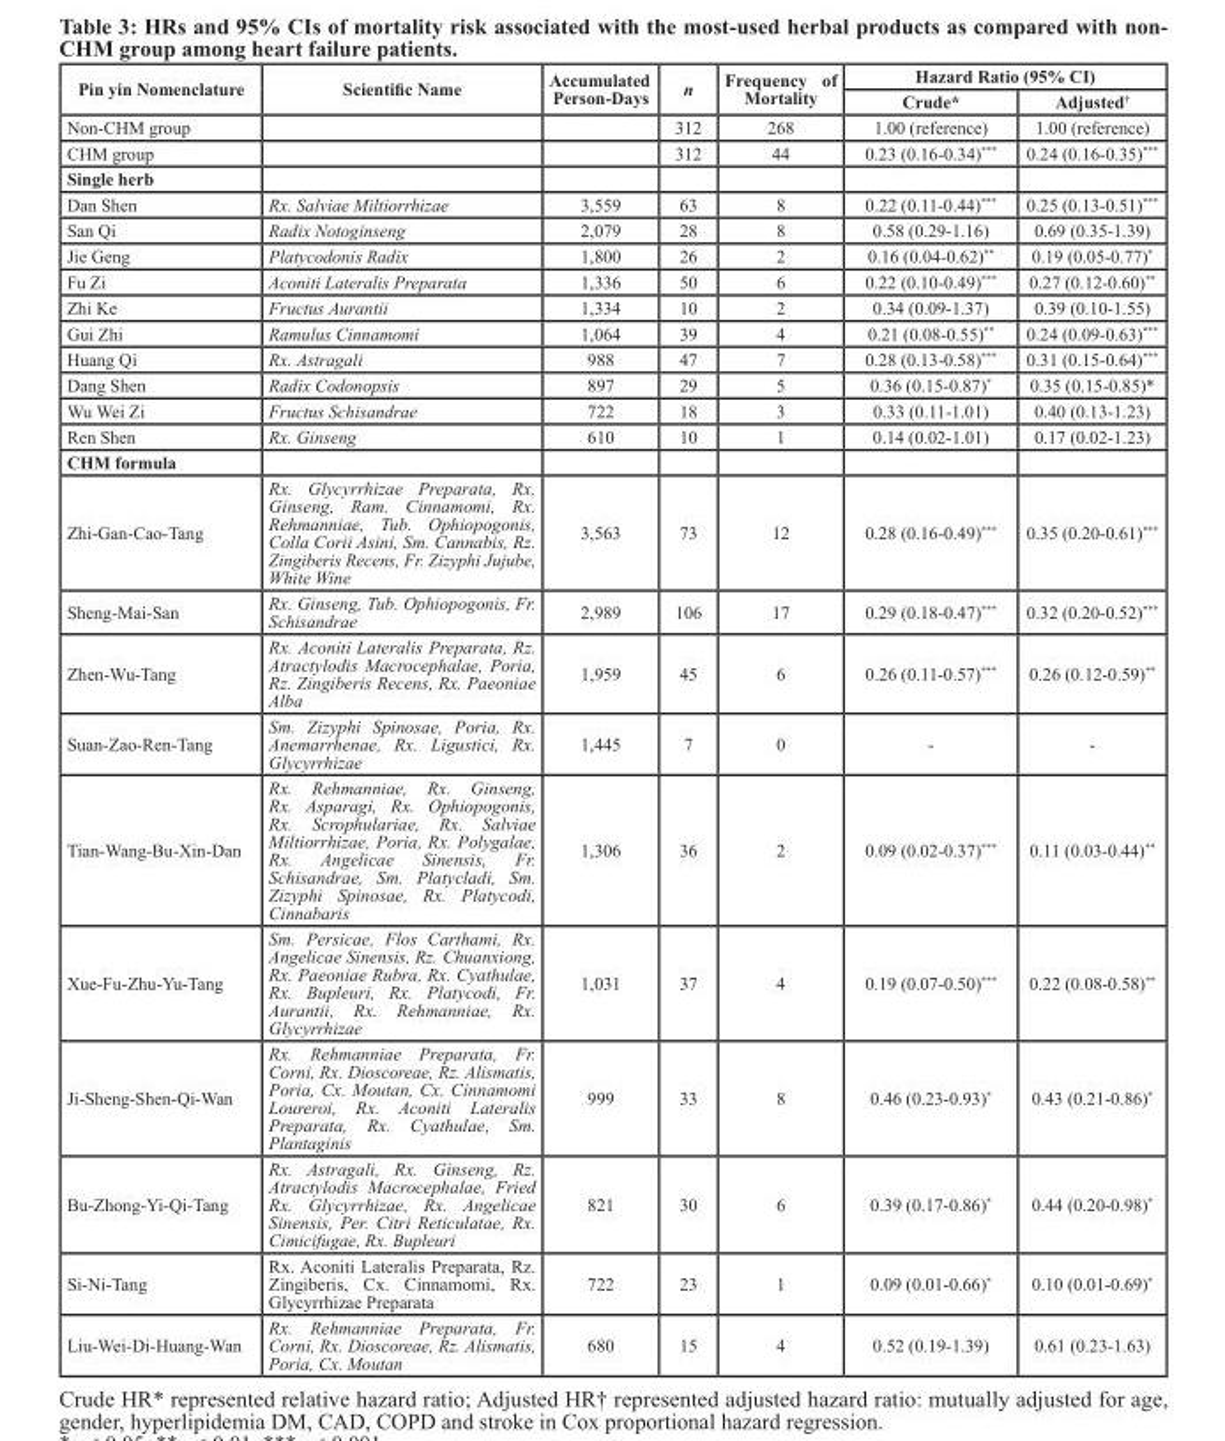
<table><thead><tr><td rowspan="2">Pin yin Nomenclature</td><td rowspan="2">Scientific Name</td><td rowspan="2">Accumulated Person-Days</td><td rowspan="2">n</td><td rowspan="2">Frequency of Mortality</td><td colspan="2">Hazard Ratio (95% CI)</td></tr><tr><td>Crude*</td><td>Adjusted<sup>†</sup></td></tr></thead><tbody><tr><td>Non-CHM group</td><td></td><td></td><td>312</td><td>268</td><td>1.00 (reference)</td><td>1.00 (reference)</td></tr><tr><td>CHM group</td><td></td><td></td><td>312</td><td>44</td><td>0.23 (0.16-0.34)***</td><td>0.24 (0.16-0.35)***</td></tr><tr><td colspan="7">Single herb</td></tr><tr><td>Dan Shen</td><td>Rx. Salviae Miltiorrhizae</td><td>3,559</td><td>63</td><td>8</td><td>0.22 (0.11-0.44)***</td><td>0.25 (0.13-0.51)***</td></tr><tr><td>San Qi</td><td>Radix Notoginseng</td><td>2,079</td><td>28</td><td>8</td><td>0.58 (0.29-1.16)</td><td>0.69 (0.35-1.39)</td></tr><tr><td>Jie Geng</td><td>Platycodonis Radix</td><td>1,800</td><td>26</td><td>2</td><td>0.16 (0.04-0.62)**</td><td>0.19 (0.05-0.77)*</td></tr><tr><td>Fu Zi</td><td>Aconiti Lateralis Preparata</td><td>1,336</td><td>50</td><td>6</td><td>0.22 (0.10-0.49)***</td><td>0.27 (0.12-0.60)**</td></tr><tr><td>Zhi Ke</td><td>Fructus Aurantii</td><td>1,334</td><td>10</td><td>2</td><td>0.34 (0.09-1.37)</td><td>0.39 (0.10-1.55)</td></tr><tr><td>Gui Zhi</td><td>Ramulus Cinnamomi</td><td>1,064</td><td>39</td><td>4</td><td>0.21 (0.08-0.55)**</td><td>0.24 (0.09-0.63)***</td></tr><tr><td>Huang Qi</td><td>Rx. Astragali</td><td>988</td><td>47</td><td>7</td><td>0.28 (0.13-0.58)***</td><td>0.31 (0.15-0.64)***</td></tr><tr><td>Dang Shen</td><td>Radix Codonopsis</td><td>897</td><td>29</td><td>5</td><td>0.36 (0.15-0.87)*</td><td>0.35 (0.15-0.85)*</td></tr><tr><td>Wu Wei Zi</td><td>Fructus Schisandrae</td><td>722</td><td>18</td><td>3</td><td>0.33 (0.11-1.01)</td><td>0.40 (0.13-1.23)</td></tr><tr><td>Ren Shen</td><td>Rx. Ginseng</td><td>610</td><td>10</td><td>1</td><td>0.14 (0.02-1.01)</td><td>0.17 (0.02-1.23)</td></tr><tr><td colspan="7">CHM formula</td></tr><tr><td>Zhi-Gan-Cao-Tang</td><td>Rx. Glycyrrhizae Preparata, Rx. Ginseng, Ram. Cinnamomi, Rx. Rehmanniae, Tub. Ophiopogonis, Colla Corii Asini, Sm. Cannabis, Rz. Zingiberis Recens, Fr. Zizyphi Jujube, White Wine</td><td>3,563</td><td>73</td><td>12</td><td>0.28 (0.16-0.49)***</td><td>0.35 (0.20-0.61)***</td></tr><tr><td>Sheng-Mai-San</td><td>Rx. Ginseng, Tub. Ophiopogonis, Fr. Schisandrae</td><td>2,989</td><td>106</td><td>17</td><td>0.29 (0.18-0.47)***</td><td>0.32 (0.20-0.52)***</td></tr><tr><td>Zhen-Wu-Tang</td><td>Rx. Aconiti Lateralis Preparata, Rz. Atractylodis Macrocephalae, Poria, Rz. Zingiberis Recens, Rx. Paeoniae Alba</td><td>1,959</td><td>45</td><td>6</td><td>0.26 (0.11-0.57)***</td><td>0.26 (0.12-0.59)**</td></tr><tr><td>Suan-Zao-Ren-Tang</td><td>Sm. Zizyphi Spinosae, Poria, Rx. Anemarrhenae, Rx. Ligustici, Rx. Glycyrrhizae</td><td>1,445</td><td>7</td><td>0</td><td>-</td><td>-</td></tr><tr><td>Tian-Wang-Bu-Xin-Dan</td><td>Rx. Rehmanniae, Rx. Ginseng, Rx. Asparagi, Rx. Ophiopogonis, Rx. Scrophulariae, Rx. Salviae Miltiorrhizae, Poria, Rx. Polygalae, Rx. Angelicae Sinensis, Fr. Schisandrae, Sm. Platycladi, Sm. Zizyphi Spinosae, Rx. Platycodi, Cinnabaris</td><td>1,306</td><td>36</td><td>2</td><td>0.09 (0.02-0.37)***</td><td>0.11 (0.03-0.44)**</td></tr><tr><td>Xue-Fu-Zhu-Yu-Tang</td><td>Sm. Persicae, Flos Carthami, Rx. Angelicae Sinensis, Rz. Chuanxiong, Rx. Paeoniae Rubra, Rx. Cyathulae, Rx. Bupleuri, Rx. Platycodi, Fr. Aurantii, Rx. Rehmanniae, Rx. Glycyrrhizae</td><td>1,031</td><td>37</td><td>4</td><td>0.19 (0.07-0.50)***</td><td>0.22 (0.08-0.58)**</td></tr><tr><td>Ji-Sheng-Shen-Qi-Wan</td><td>Rx. Rehmanniae Preparata, Fr. Corni, Rx. Dioscoreae, Rz. Alismatis, Poria, Cx. Moutan, Cx. Cinnamomi Loureroi, Rx. Aconiti Lateralis Preparata, Rx. Cyathulae, Sm. Plantaginis</td><td>999</td><td>33</td><td>8</td><td>0.46 (0.23-0.93)*</td><td>0.43 (0.21-0.86)*</td></tr><tr><td>Bu-Zhong-Yi-Qi-Tang</td><td>Rx. Astragali, Rx. Ginseng, Rz. Atractylodis Macrocephalae, Fried Rx. Glycyrrhizae, Rx. Angelicae Sinensis, Per. Citri Reticulatae, Rx. Cimicifugae, Rx. Bupleuri</td><td>821</td><td>30</td><td>6</td><td>0.39 (0.17-0.86)*</td><td>0.44 (0.20-0.98)*</td></tr><tr><td>Si-Ni-Tang</td><td>Rx. Aconiti Lateralis Preparata, Rz. Zingiberis, Cx. Cinnamomi, Rx. Glycyrrhizae Preparata</td><td>722</td><td>23</td><td>1</td><td>0.09 (0.01-0.66)*</td><td>0.10 (0.01-0.69)*</td></tr><tr><td>Liu-Wei-Di-Huang-Wan</td><td>Rx. Rehmanniae Preparata, Fr. Corni, Rx. Dioscoreae, Rz. Alismatis, Poria, Cx. Moutan</td><td>680</td><td>15</td><td>4</td><td>0.52 (0.19-1.39)</td><td>0.61 (0.23-1.63)</td></tr></tbody></table>